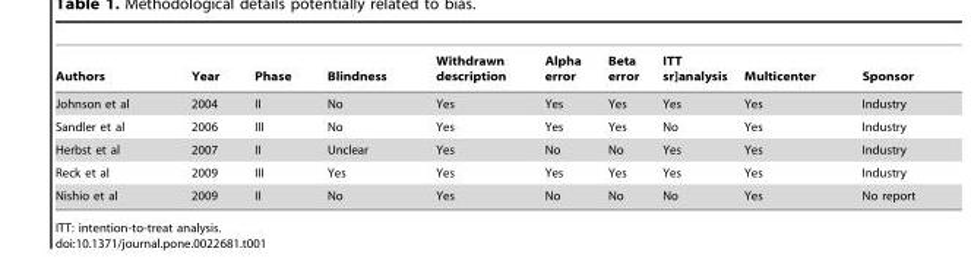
<table><thead><tr><td>Authors</td><td>Year</td><td>Phase</td><td>Blindness</td><td>Withdrawn description</td><td>Alpha error</td><td>Beta error</td><td>ITT sr]analysis</td><td>Multicenter</td><td>Sponsor</td></tr></thead><tbody><tr><td>Johnson et al</td><td>2004</td><td>II</td><td>No</td><td>Yes</td><td>Yes</td><td>Yes</td><td>Yes</td><td>Yes</td><td>Industry</td></tr><tr><td>Sandler et al</td><td>2006</td><td>III</td><td>No</td><td>Yes</td><td>Yes</td><td>Yes</td><td>No</td><td>Yes</td><td>Industry</td></tr><tr><td>Herbst et al</td><td>2007</td><td>II</td><td>Unclear</td><td>Yes</td><td>No</td><td>No</td><td>Yes</td><td>Yes</td><td>Industry</td></tr><tr><td>Reck et al</td><td>2009</td><td>III</td><td>Yes</td><td>Yes</td><td>Yes</td><td>Yes</td><td>Yes</td><td>Yes</td><td>Industry</td></tr><tr><td>Nishio et al</td><td>2009</td><td>II</td><td>No</td><td>Yes</td><td>No</td><td>No</td><td>No</td><td>Yes</td><td>No report</td></tr></tbody></table>